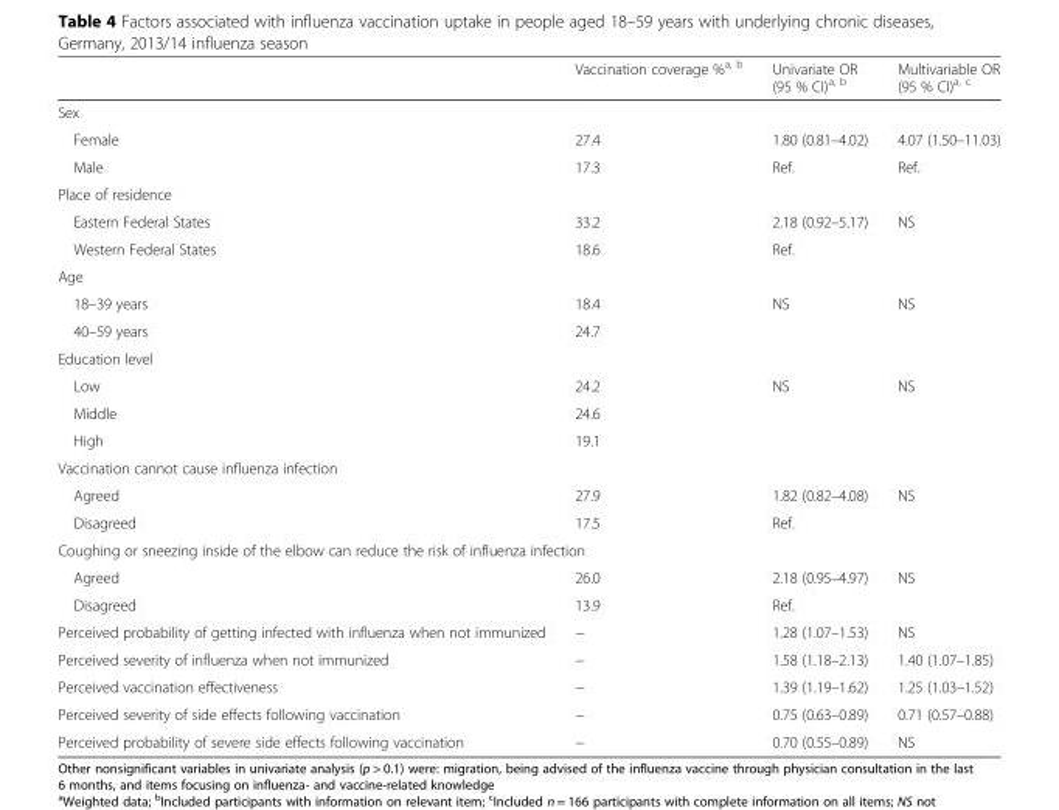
<table><thead><tr><td></td><td>Vaccination coverage %<sup>a, b</sup></td><td>Univariate OR (95 % CI)<sup>a, b</sup></td><td>Multivariable OR (95 % CI)<sup>a, c</sup></td></tr></thead><tbody><tr><td colspan="4">Sex</td></tr><tr><td>Female</td><td>27.4</td><td>1.80 (0.81–4.02)</td><td>4.07 (1.50–11.03)</td></tr><tr><td>Male</td><td>17.3</td><td>Ref.</td><td>Ref.</td></tr><tr><td colspan="4">Place of residence</td></tr><tr><td>Eastern Federal States</td><td>33.2</td><td>2.18 (0.92–5.17)</td><td rowspan="2">NS</td></tr><tr><td>Western Federal States</td><td>18.6</td><td>Ref.</td></tr><tr><td colspan="4">Age</td></tr><tr><td>18–39 years</td><td>18.4</td><td rowspan="2">NS</td><td rowspan="2">NS</td></tr><tr><td>40–59 years</td><td>24.7</td></tr><tr><td colspan="4">Education level</td></tr><tr><td>Low</td><td>24.2</td><td rowspan="3">NS</td><td rowspan="3">NS</td></tr><tr><td>Middle</td><td>24.6</td></tr><tr><td>High</td><td>19.1</td></tr><tr><td colspan="4">Vaccination cannot cause influenza infection</td></tr><tr><td>Agreed</td><td>27.9</td><td>1.82 (0.82–4.08)</td><td rowspan="2">NS</td></tr><tr><td>Disagreed</td><td>17.5</td><td>Ref.</td></tr><tr><td colspan="4">Coughing or sneezing inside of the elbow can reduce the risk of influenza infection</td></tr><tr><td>Agreed</td><td>26.0</td><td>2.18 (0.95–4.97)</td><td rowspan="2">NS</td></tr><tr><td>Disagreed</td><td>13.9</td><td>Ref.</td></tr><tr><td>Perceived probability of getting infected with influenza when not immunized</td><td>−</td><td>1.28 (1.07–1.53)</td><td>NS</td></tr><tr><td>Perceived severity of influenza when not immunized</td><td>−</td><td>1.58 (1.18–2.13)</td><td>1.40 (1.07–1.85)</td></tr><tr><td>Perceived vaccination effectiveness</td><td>−</td><td>1.39 (1.19–1.62)</td><td>1.25 (1.03–1.52)</td></tr><tr><td>Perceived severity of side effects following vaccination</td><td>−</td><td>0.75 (0.63–0.89)</td><td>0.71 (0.57–0.88)</td></tr><tr><td>Perceived probability of severe side effects following vaccination</td><td>−</td><td>0.70 (0.55–0.89)</td><td>NS</td></tr></tbody></table>